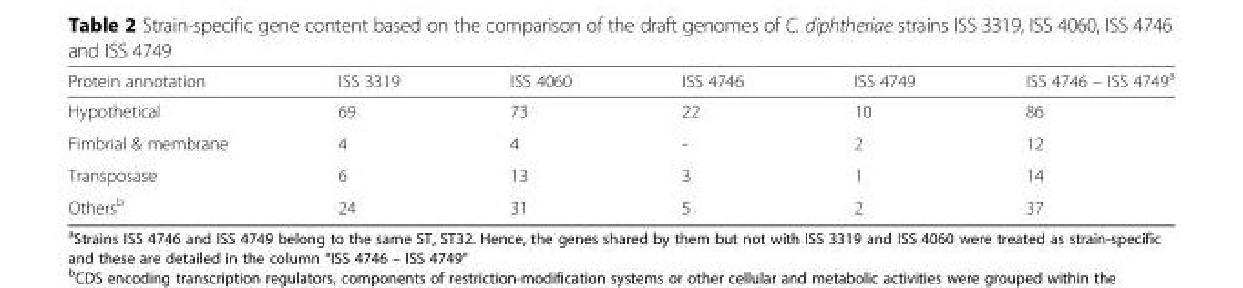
<table><thead><tr><td>Protein annotation</td><td>ISS 3319</td><td>ISS 4060</td><td>ISS 4746</td><td>ISS 4749</td><td>ISS 4746 – ISS 4749<sup>a</sup></td></tr></thead><tbody><tr><td>Hypothetical</td><td>69</td><td>73</td><td>22</td><td>10</td><td>86</td></tr><tr><td>Fimbrial &amp; membrane</td><td>4</td><td>4</td><td>-</td><td>2</td><td>12</td></tr><tr><td>Transposase</td><td>6</td><td>13</td><td>3</td><td>1</td><td>14</td></tr><tr><td>Others<sup>b</sup></td><td>24</td><td>31</td><td>5</td><td>2</td><td>37</td></tr></tbody></table>